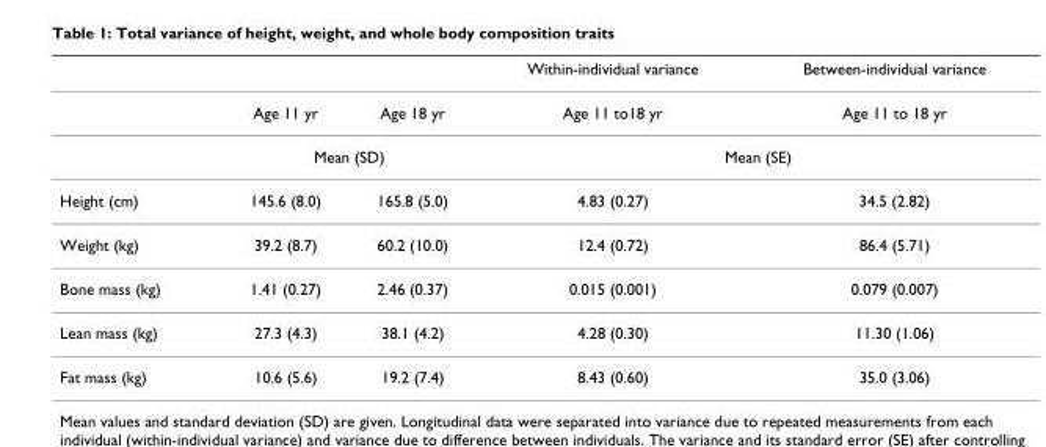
<table><thead><tr><td></td><td></td><td></td><td>Within-individual variance</td><td>Between-individual variance</td></tr></thead><tbody><tr><td></td><td>Age 11 yr</td><td>Age 18 yr</td><td>Age 11 to18 yr</td><td>Age 11 to 18 yr</td></tr><tr><td></td><td colspan="2">Mean (SD)</td><td colspan="2">Mean (SE)</td></tr><tr><td>Height (cm)</td><td>145.6 (8.0)</td><td>165.8 (5.0)</td><td>4.83 (0.27)</td><td>34.5 (2.82)</td></tr><tr><td>Weight (kg)</td><td>39.2 (8.7)</td><td>60.2 (10.0)</td><td>12.4 (0.72)</td><td>86.4 (5.71)</td></tr><tr><td>Bone mass (kg)</td><td>1.41 (0.27)</td><td>2.46 (0.37)</td><td>0.015 (0.001)</td><td>0.079 (0.007)</td></tr><tr><td>Lean mass (kg)</td><td>27.3 (4.3)</td><td>38.1 (4.2)</td><td>4.28 (0.30)</td><td>11.30 (1.06)</td></tr><tr><td>Fat mass (kg)</td><td>10.6 (5.6)</td><td>19.2 (7.4)</td><td>8.43 (0.60)</td><td>35.0 (3.06)</td></tr></tbody></table>